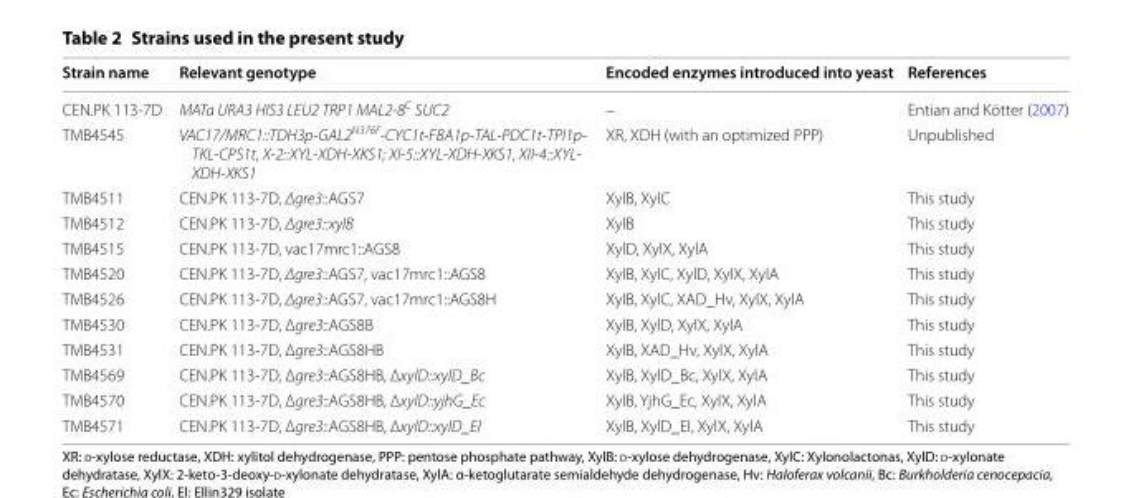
<table><thead><tr><td>Strain name</td><td>Relevant genotype</td><td>Encoded enzymes introduced into yeast</td><td>References</td></tr></thead><tbody><tr><td>CEN.PK 113‑7D</td><td>MATa URA3 HIS3 LEU2 TRP1 MAL2‑8<sup>C</sup> SUC2</td><td>–</td><td>Entian and Kötter (2007)</td></tr><tr><td>TMB4545</td><td>VAC17/MRC1::TDH3p‑GAL2<sup>N376F</sup>‑CYC1t‑FBA1p‑TAL‑PDC1t‑TPI1p‑ TKL‑CPS1t, X‑2::XYL‑XDH‑XKS1; XI‑5::XYL‑XDH‑XKS1, XII‑4::XYL‑ XDH‑XKS1</td><td>XR, XDH (with an optimized PPP)</td><td>Unpublished</td></tr><tr><td>TMB4511</td><td>CEN.PK 113‑7D, Δgre3::AGS7</td><td>XylB, XylC</td><td>This study</td></tr><tr><td>TMB4512</td><td>CEN.PK 113‑7D, Δgre3::xylB</td><td>XylB</td><td>This study</td></tr><tr><td>TMB4515</td><td>CEN.PK 113‑7D, vac17mrc1::AGS8</td><td>XylD, XylX, XylA</td><td>This study</td></tr><tr><td>TMB4520</td><td>CEN.PK 113‑7D, Δgre3::AGS7, vac17mrc1::AGS8</td><td>XylB, XylC, XylD, XylX, XylA</td><td>This study</td></tr><tr><td>TMB4526</td><td>CEN.PK 113‑7D, Δgre3::AGS7, vac17mrc1::AGS8H</td><td>XylB, XylC, XAD_Hv, XylX, XylA</td><td>This study</td></tr><tr><td>TMB4530</td><td>CEN.PK 113‑7D, Δgre3::AGS8B</td><td>XylB, XylD, XylX, XylA</td><td>This study</td></tr><tr><td>TMB4531</td><td>CEN.PK 113‑7D, Δgre3::AGS8HB</td><td>XylB, XAD_Hv, XylX, XylA</td><td>This study</td></tr><tr><td>TMB4569</td><td>CEN.PK 113‑7D, Δgre3::AGS8HB, ΔxylD::xylD_Bc</td><td>XylB, XylD_Bc, XylX, XylA</td><td>This study</td></tr><tr><td>TMB4570</td><td>CEN.PK 113‑7D, Δgre3::AGS8HB, ΔxylD::yjhG_Ec</td><td>XylB, YjhG_Ec, XylX, XylA</td><td>This study</td></tr><tr><td>TMB4571</td><td>CEN.PK 113‑7D, Δgre3::AGS8HB, ΔxylD::xylD_El</td><td>XylB, XylD_El, XylX, XylA</td><td>This study</td></tr></tbody></table>